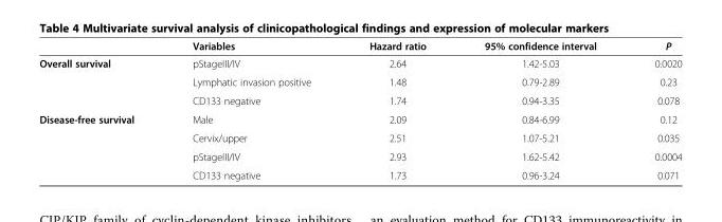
<table><thead><tr><td></td><td>Variables</td><td>Hazard ratio</td><td>95% confidence interval</td><td>P</td></tr></thead><tbody><tr><td rowspan="3">Overall survival</td><td>pStageIII/IV</td><td>2.64</td><td>1.42-5.03</td><td>0.0020</td></tr><tr><td>Lymphatic invasion positive</td><td>1.48</td><td>0.79-2.89</td><td>0.23</td></tr><tr><td>CD133 negative</td><td>1.74</td><td>0.94-3.35</td><td>0.078</td></tr><tr><td rowspan="4">Disease-free survival</td><td>Male</td><td>2.09</td><td>0.84-6.99</td><td>0.12</td></tr><tr><td>Cervix/upper</td><td>2.51</td><td>1.07-5.21</td><td>0.035</td></tr><tr><td>pStageIII/IV</td><td>2.93</td><td>1.62-5.42</td><td>0.0004</td></tr><tr><td>CD133 negative</td><td>1.73</td><td>0.96-3.24</td><td>0.071</td></tr></tbody></table>